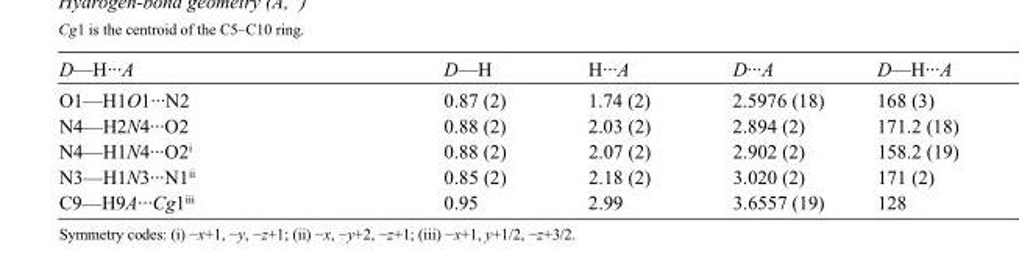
<table><tbody><tr><td>D—H···A</td><td>D—H</td><td>H···A</td><td>D···A</td><td>D—H···A</td></tr><tr><td>O1—H1O1···N2</td><td>0.87 (2)</td><td>1.74 (2)</td><td>2.5976 (18)</td><td>168 (3)</td></tr><tr><td>N4—H2N4···O2</td><td>0.88 (2)</td><td>2.03 (2)</td><td>2.894 (2)</td><td>171.2 (18)</td></tr><tr><td>N4—H1N4···O2<sup>i</sup></td><td>0.88 (2)</td><td>2.07 (2)</td><td>2.902 (2)</td><td>158.2 (19)</td></tr><tr><td>N3—H1N3···N1<sup>ii</sup></td><td>0.85 (2)</td><td>2.18 (2)</td><td>3.020 (2)</td><td>171 (2)</td></tr><tr><td>C9—H9A···Cg1<sup>iii</sup></td><td>0.95</td><td>2.99</td><td>3.6557 (19)</td><td>128</td></tr></tbody></table>